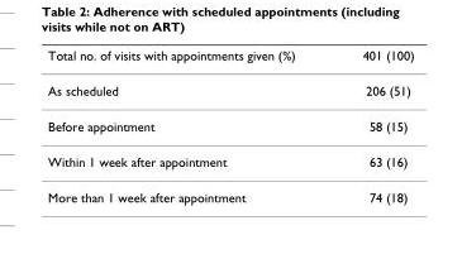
<table><thead><tr><td>Total no. of visits with appointments given (%)</td><td>401 (100)</td></tr></thead><tbody><tr><td>As scheduled</td><td>206 (51)</td></tr><tr><td>Before appointment</td><td>58 (15)</td></tr><tr><td>Within 1 week after appointment</td><td>63 (16)</td></tr><tr><td>More than 1 week after appointment</td><td>74 (18)</td></tr></tbody></table>